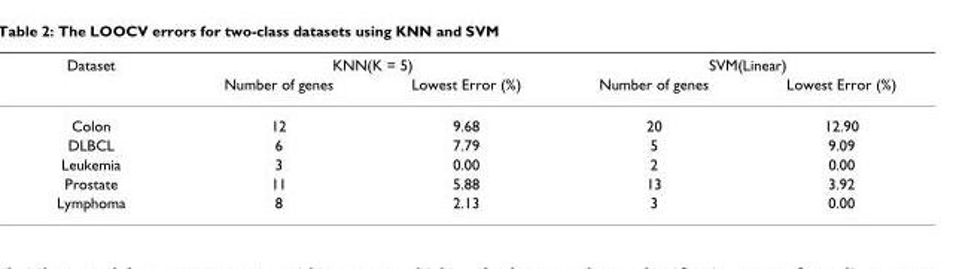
<table><thead><tr><td rowspan="2">Dataset</td><td colspan="2">KNN(K = 5)</td><td colspan="2">SVM(Linear)</td></tr><tr><td>Number of genes</td><td>Lowest Error (%)</td><td>Number of genes</td><td>Lowest Error (%)</td></tr></thead><tbody><tr><td>Colon</td><td>12</td><td>9.68</td><td>20</td><td>12.90</td></tr><tr><td>DLBCL</td><td>6</td><td>7.79</td><td>5</td><td>9.09</td></tr><tr><td>Leukemia</td><td>3</td><td>0.00</td><td>2</td><td>0.00</td></tr><tr><td>Prostate</td><td>11</td><td>5.88</td><td>13</td><td>3.92</td></tr><tr><td>Lymphoma</td><td>8</td><td>2.13</td><td>3</td><td>0.00</td></tr></tbody></table>